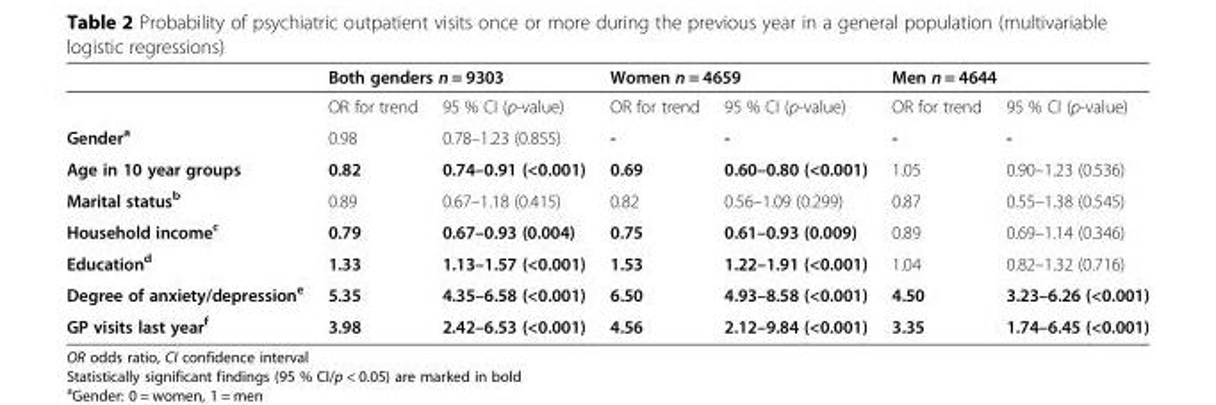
<table><thead><tr><td rowspan="2"></td><td colspan="2">Both genders n = 9303</td><td colspan="2">Women n = 4659</td><td colspan="2">Men n = 4644</td></tr><tr><td>OR for trend</td><td>95 % CI (p-value)</td><td>OR for trend</td><td>95 % CI (p-value)</td><td>OR for trend</td><td>95 % CI (p-value)</td></tr></thead><tbody><tr><td>Gender<sup>a</sup></td><td>0.98</td><td>0.78–1.23 (0.855)</td><td>-</td><td>-</td><td>-</td><td>-</td></tr><tr><td>Age in 10 year groups</td><td>0.82</td><td>0.74–0.91 (&lt;0.001)</td><td>0.69</td><td>0.60–0.80 (&lt;0.001)</td><td>1.05</td><td>0.90–1.23 (0.536)</td></tr><tr><td>Marital status<sup>b</sup></td><td>0.89</td><td>0.67–1.18 (0.415)</td><td>0.82</td><td>0.56–1.09 (0.299)</td><td>0.87</td><td>0.55–1.38 (0.545)</td></tr><tr><td>Household income<sup>c</sup></td><td>0.79</td><td>0.67–0.93 (0.004)</td><td>0.75</td><td>0.61–0.93 (0.009)</td><td>0.89</td><td>0.69–1.14 (0.346)</td></tr><tr><td>Education<sup>d</sup></td><td>1.33</td><td>1.13–1.57 (&lt;0.001)</td><td>1.53</td><td>1.22–1.91 (&lt;0.001)</td><td>1.04</td><td>0.82–1.32 (0.716)</td></tr><tr><td>Degree of anxiety/depression<sup>e</sup></td><td>5.35</td><td>4.35–6.58 (&lt;0.001)</td><td>6.50</td><td>4.93–8.58 (&lt;0.001)</td><td>4.50</td><td>3.23–6.26 (&lt;0.001)</td></tr><tr><td>GP visits last year<sup>f</sup></td><td>3.98</td><td>2.42–6.53 (&lt;0.001)</td><td>4.56</td><td>2.12–9.84 (&lt;0.001)</td><td>3.35</td><td>1.74–6.45 (&lt;0.001)</td></tr></tbody></table>